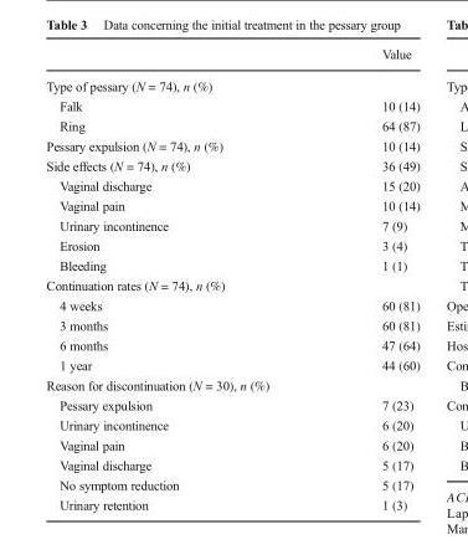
<table><thead><tr><td></td><td>Value</td></tr></thead><tbody><tr><td colspan="2">Type of pessary (N = 74), n (%)</td></tr><tr><td>Falk</td><td>10 (14)</td></tr><tr><td>Ring</td><td>64 (87)</td></tr><tr><td>Pessary expulsion (N = 74), n (%)</td><td>10 (14)</td></tr><tr><td>Side effects (N = 74), n (%)</td><td>36 (49)</td></tr><tr><td>Vaginal discharge</td><td>15 (20)</td></tr><tr><td>Vaginal pain</td><td>10 (14)</td></tr><tr><td>Urinary incontinence</td><td>7 (9)</td></tr><tr><td>Erosion</td><td>3 (4)</td></tr><tr><td>Bleeding</td><td>1 (1)</td></tr><tr><td colspan="2">Continuation rates (N = 74), n (%)</td></tr><tr><td>4 weeks</td><td>60 (81)</td></tr><tr><td>3 months</td><td>60 (81)</td></tr><tr><td>6 months</td><td>47 (64)</td></tr><tr><td>1 year</td><td>44 (60)</td></tr><tr><td colspan="2">Reason for discontinuation (N = 30), n (%)</td></tr><tr><td>Pessary expulsion</td><td>7 (23)</td></tr><tr><td>Urinary incontinence</td><td>6 (20)</td></tr><tr><td>Vaginal pain</td><td>6 (20)</td></tr><tr><td>Vaginal discharge</td><td>5 (17)</td></tr><tr><td>No symptom reduction</td><td>5 (17)</td></tr><tr><td>Urinary retention</td><td>1 (3)</td></tr></tbody></table>